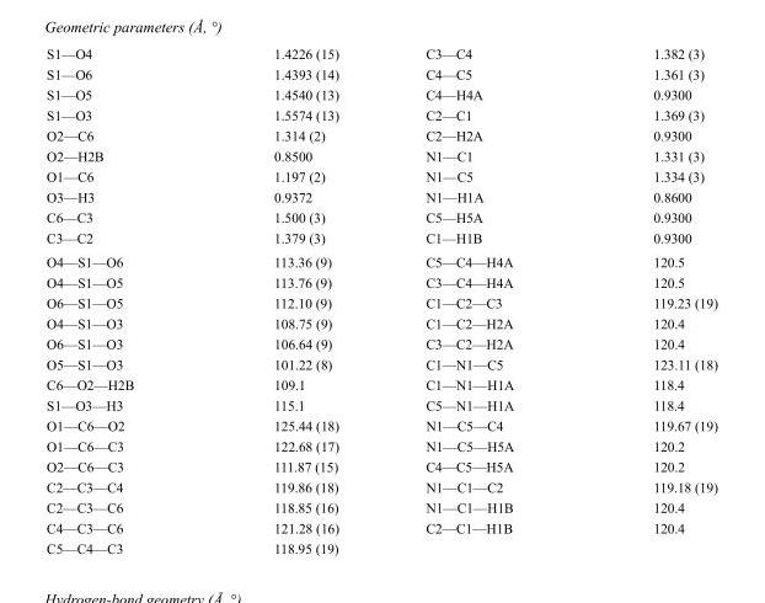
<table><tbody><tr><td>S1—O4</td><td>1.4226 (15)</td><td>C3—C4</td><td>1.382 (3)</td></tr><tr><td>S1—O6</td><td>1.4393 (14)</td><td>C4—C5</td><td>1.361 (3)</td></tr><tr><td>S1—O5</td><td>1.4540 (13)</td><td>C4—H4A</td><td>0.9300</td></tr><tr><td>S1—O3</td><td>1.5574 (13)</td><td>C2—C1</td><td>1.369 (3)</td></tr><tr><td>O2—C6</td><td>1.314 (2)</td><td>C2—H2A</td><td>0.9300</td></tr><tr><td>O2—H2B</td><td>0.8500</td><td>N1—C1</td><td>1.331 (3)</td></tr><tr><td>O1—C6</td><td>1.197 (2)</td><td>N1—C5</td><td>1.334 (3)</td></tr><tr><td>O3—H3</td><td>0.9372</td><td>N1—H1A</td><td>0.8600</td></tr><tr><td>C6—C3</td><td>1.500 (3)</td><td>C5—H5A</td><td>0.9300</td></tr><tr><td>C3—C2</td><td>1.379 (3)</td><td>C1—H1B</td><td>0.9300</td></tr><tr><td>O4—S1—O6</td><td>113.36 (9)</td><td>C5—C4—H4A</td><td>120.5</td></tr><tr><td>O4—S1—O5</td><td>113.76 (9)</td><td>C3—C4—H4A</td><td>120.5</td></tr><tr><td>O6—S1—O5</td><td>112.10 (9)</td><td>C1—C2—C3</td><td>119.23 (19)</td></tr><tr><td>O4—S1—O3</td><td>108.75 (9)</td><td>C1—C2—H2A</td><td>120.4</td></tr><tr><td>O6—S1—O3</td><td>106.64 (9)</td><td>C3—C2—H2A</td><td>120.4</td></tr><tr><td>O5—S1—O3</td><td>101.22 (8)</td><td>C1—N1—C5</td><td>123.11 (18)</td></tr><tr><td>C6—O2—H2B</td><td>109.1</td><td>C1—N1—H1A</td><td>118.4</td></tr><tr><td>S1—O3—H3</td><td>115.1</td><td>C5—N1—H1A</td><td>118.4</td></tr><tr><td>O1—C6—O2</td><td>125.44 (18)</td><td>N1—C5—C4</td><td>119.67 (19)</td></tr><tr><td>O1—C6—C3</td><td>122.68 (17)</td><td>N1—C5—H5A</td><td>120.2</td></tr><tr><td>O2—C6—C3</td><td>111.87 (15)</td><td>C4—C5—H5A</td><td>120.2</td></tr><tr><td>C2—C3—C4</td><td>119.86 (18)</td><td>N1—C1—C2</td><td>119.18 (19)</td></tr><tr><td>C2—C3—C6</td><td>118.85 (16)</td><td>N1—C1—H1B</td><td>120.4</td></tr><tr><td>C4—C3—C6</td><td>121.28 (16)</td><td>C2—C1—H1B</td><td>120.4</td></tr><tr><td>C5—C4—C3</td><td>118.95 (19)</td><td></td><td></td></tr></tbody></table>